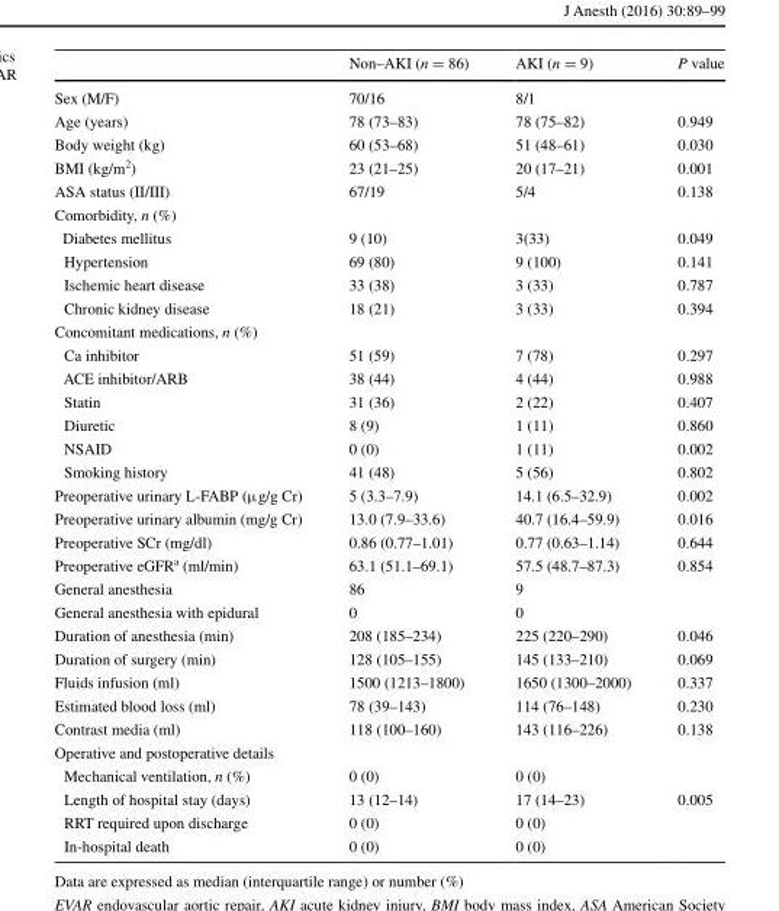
<table><thead><tr><td></td><td>Non–AKI (n = 86)</td><td>AKI (n = 9)</td><td>P value</td></tr></thead><tbody><tr><td>Sex (M/F)</td><td>70/16</td><td>8/1</td><td></td></tr><tr><td>Age (years)</td><td>78 (73–83)</td><td>78 (75–82)</td><td>0.949</td></tr><tr><td>Body weight (kg)</td><td>60 (53–68)</td><td>51 (48–61)</td><td>0.030</td></tr><tr><td>BMI (kg/m<sup>2</sup>)</td><td>23 (21–25)</td><td>20 (17–21)</td><td>0.001</td></tr><tr><td>ASA status (II/III)</td><td>67/19</td><td>5/4</td><td>0.138</td></tr><tr><td colspan="4">Comorbidity, n (%)</td></tr><tr><td>Diabetes mellitus</td><td>9 (10)</td><td>3(33)</td><td>0.049</td></tr><tr><td>Hypertension</td><td>69 (80)</td><td>9 (100)</td><td>0.141</td></tr><tr><td>Ischemic heart disease</td><td>33 (38)</td><td>3 (33)</td><td>0.787</td></tr><tr><td>Chronic kidney disease</td><td>18 (21)</td><td>3 (33)</td><td>0.394</td></tr><tr><td colspan="4">Concomitant medications, n (%)</td></tr><tr><td>Ca inhibitor</td><td>51 (59)</td><td>7 (78)</td><td>0.297</td></tr><tr><td>ACE inhibitor/ARB</td><td>38 (44)</td><td>4 (44)</td><td>0.988</td></tr><tr><td>Statin</td><td>31 (36)</td><td>2 (22)</td><td>0.407</td></tr><tr><td>Diuretic</td><td>8 (9)</td><td>1 (11)</td><td>0.860</td></tr><tr><td>NSAID</td><td>0 (0)</td><td>1 (11)</td><td>0.002</td></tr><tr><td>Smoking history</td><td>41 (48)</td><td>5 (56)</td><td>0.802</td></tr><tr><td>Preoperative urinary L-FABP (μg/g Cr)</td><td>5 (3.3–7.9)</td><td>14.1 (6.5–32.9)</td><td>0.002</td></tr><tr><td>Preoperative urinary albumin (mg/g Cr)</td><td>13.0 (7.9–33.6)</td><td>40.7 (16.4–59.9)</td><td>0.016</td></tr><tr><td>Preoperative SCr (mg/dl)</td><td>0.86 (0.77–1.01)</td><td>0.77 (0.63–1.14)</td><td>0.644</td></tr><tr><td>Preoperative eGFR<sup>a</sup> (ml/min)</td><td>63.1 (51.1–69.1)</td><td>57.5 (48.7–87.3)</td><td>0.854</td></tr><tr><td>General anesthesia</td><td>86</td><td>9</td><td></td></tr><tr><td>General anesthesia with epidural</td><td>0</td><td>0</td><td></td></tr><tr><td>Duration of anesthesia (min)</td><td>208 (185–234)</td><td>225 (220–290)</td><td>0.046</td></tr><tr><td>Duration of surgery (min)</td><td>128 (105–155)</td><td>145 (133–210)</td><td>0.069</td></tr><tr><td>Fluids infusion (ml)</td><td>1500 (1213–1800)</td><td>1650 (1300–2000)</td><td>0.337</td></tr><tr><td>Estimated blood loss (ml)</td><td>78 (39–143)</td><td>114 (76–148)</td><td>0.230</td></tr><tr><td>Contrast media (ml)</td><td>118 (100–160)</td><td>143 (116–226)</td><td>0.138</td></tr><tr><td colspan="4">Operative and postoperative details</td></tr><tr><td>Mechanical ventilation, n (%)</td><td>0 (0)</td><td>0 (0)</td><td></td></tr><tr><td>Length of hospital stay (days)</td><td>13 (12–14)</td><td>17 (14–23)</td><td>0.005</td></tr><tr><td>RRT required upon discharge</td><td>0 (0)</td><td>0 (0)</td><td></td></tr><tr><td>In-hospital death</td><td>0 (0)</td><td>0 (0)</td><td></td></tr></tbody></table>